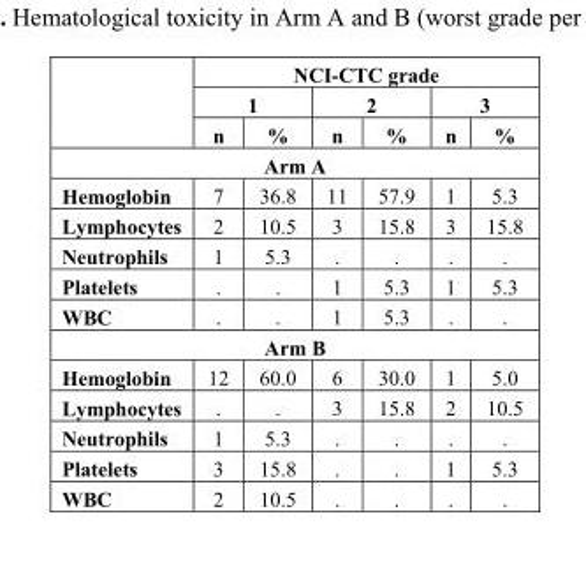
<table><thead><tr><td rowspan="3"></td><td colspan="6">NCI-CTC grade</td></tr><tr><td colspan="2">1</td><td colspan="2">2</td><td colspan="2">3</td></tr><tr><td>n</td><td>%</td><td>n</td><td>%</td><td>n</td><td>%</td></tr></thead><tbody><tr><td colspan="7">Arm A</td></tr><tr><td>Hemoglobin</td><td>7</td><td>36.8</td><td>11</td><td>57.9</td><td>1</td><td>5.3</td></tr><tr><td>Lymphocytes</td><td>2</td><td>10.5</td><td>3</td><td>15.8</td><td>3</td><td>15.8</td></tr><tr><td>Neutrophils</td><td>1</td><td>5.3</td><td>.</td><td>.</td><td>.</td><td>.</td></tr><tr><td>Platelets</td><td>.</td><td>.</td><td>1</td><td>5.3</td><td>1</td><td>5.3</td></tr><tr><td>WBC</td><td>.</td><td>.</td><td>1</td><td>5.3</td><td>.</td><td>.</td></tr><tr><td colspan="7">Arm B</td></tr><tr><td>Hemoglobin</td><td>12</td><td>60.0</td><td>6</td><td>30.0</td><td>1</td><td>5.0</td></tr><tr><td>Lymphocytes</td><td>.</td><td>.</td><td>3</td><td>15.8</td><td>2</td><td>10.5</td></tr><tr><td>Neutrophils</td><td>1</td><td>5.3</td><td>.</td><td>.</td><td>.</td><td>.</td></tr><tr><td>Platelets</td><td>3</td><td>15.8</td><td>.</td><td>.</td><td>1</td><td>5.3</td></tr><tr><td>WBC</td><td>2</td><td>10.5</td><td>.</td><td>.</td><td>.</td><td>.</td></tr></tbody></table>